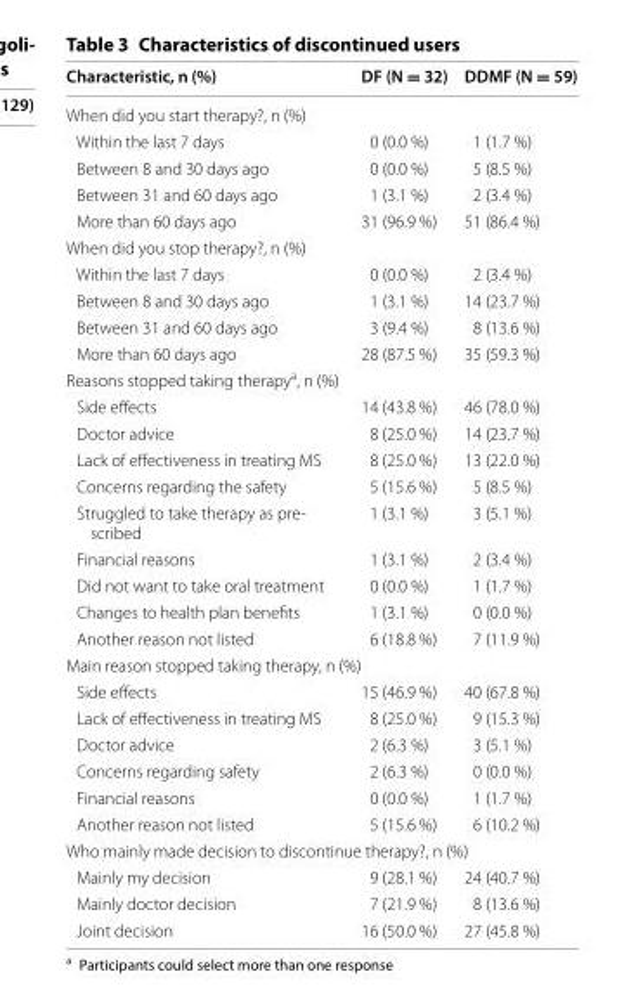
<table><thead><tr><td>Characteristic, n (%)</td><td>DF (N = 32)</td><td>DDMF (N = 59)</td></tr></thead><tbody><tr><td colspan="3">When did you start therapy?, n (%)</td></tr><tr><td>Within the last 7 days</td><td>0 (0.0 %)</td><td>1 (1.7 %)</td></tr><tr><td>Between 8 and 30 days ago</td><td>0 (0.0 %)</td><td>5 (8.5 %)</td></tr><tr><td>Between 31 and 60 days ago</td><td>1 (3.1 %)</td><td>2 (3.4 %)</td></tr><tr><td>More than 60 days ago</td><td>31 (96.9 %)</td><td>51 (86.4 %)</td></tr><tr><td colspan="3">When did you stop therapy?, n (%)</td></tr><tr><td>Within the last 7 days</td><td>0 (0.0 %)</td><td>2 (3.4 %)</td></tr><tr><td>Between 8 and 30 days ago</td><td>1 (3.1 %)</td><td>14 (23.7 %)</td></tr><tr><td>Between 31 and 60 days ago</td><td>3 (9.4 %)</td><td>8 (13.6 %)</td></tr><tr><td>More than 60 days ago</td><td>28 (87.5 %)</td><td>35 (59.3 %)</td></tr><tr><td colspan="3">Reasons stopped taking therapy<sup>a</sup>, n (%)</td></tr><tr><td>Side effects</td><td>14 (43.8 %)</td><td>46 (78.0 %)</td></tr><tr><td>Doctor advice</td><td>8 (25.0 %)</td><td>14 (23.7 %)</td></tr><tr><td>Lack of effectiveness in treating MS</td><td>8 (25.0 %)</td><td>13 (22.0 %)</td></tr><tr><td>Concerns regarding the safety</td><td>5 (15.6 %)</td><td>5 (8.5 %)</td></tr><tr><td>Struggled to take therapy as pre- scribed</td><td>1 (3.1 %)</td><td>3 (5.1 %)</td></tr><tr><td>Financial reasons</td><td>1 (3.1 %)</td><td>2 (3.4 %)</td></tr><tr><td>Did not want to take oral treatment</td><td>0 (0.0 %)</td><td>1 (1.7 %)</td></tr><tr><td>Changes to health plan benefits</td><td>1 (3.1 %)</td><td>0 (0.0 %)</td></tr><tr><td>Another reason not listed</td><td>6 (18.8 %)</td><td>7 (11.9 %)</td></tr><tr><td colspan="3">Main reason stopped taking therapy, n (%)</td></tr><tr><td>Side effects</td><td>15 (46.9 %)</td><td>40 (67.8 %)</td></tr><tr><td>Lack of effectiveness in treating MS</td><td>8 (25.0 %)</td><td>9 (15.3 %)</td></tr><tr><td>Doctor advice</td><td>2 (6.3 %)</td><td>3 (5.1 %)</td></tr><tr><td>Concerns regarding safety</td><td>2 (6.3 %)</td><td>0 (0.0 %)</td></tr><tr><td>Financial reasons</td><td>0 (0.0 %)</td><td>1 (1.7 %)</td></tr><tr><td>Another reason not listed</td><td>5 (15.6 %)</td><td>6 (10.2 %)</td></tr><tr><td colspan="3">Who mainly made decision to discontinue therapy?, n (%)</td></tr><tr><td>Mainly my decision</td><td>9 (28.1 %)</td><td>24 (40.7 %)</td></tr><tr><td>Mainly doctor decision</td><td>7 (21.9 %)</td><td>8 (13.6 %)</td></tr><tr><td>Joint decision</td><td>16 (50.0 %)</td><td>27 (45.8 %)</td></tr></tbody></table>